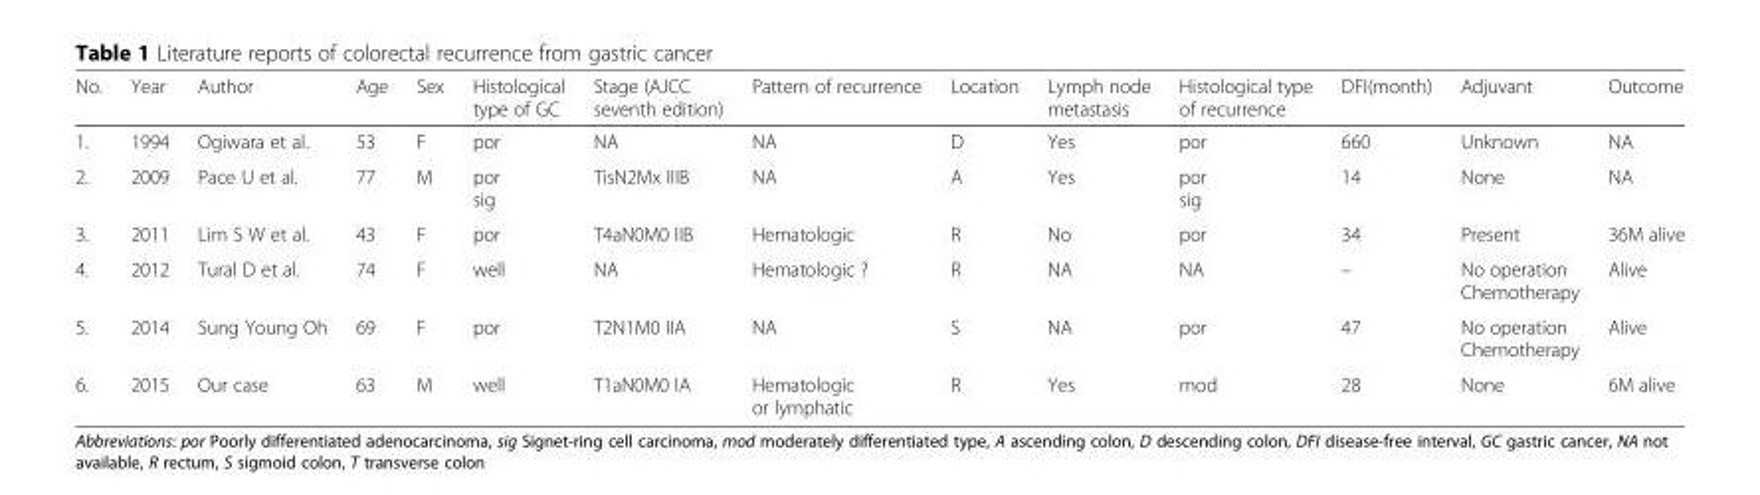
<table><thead><tr><td>No.</td><td>Year</td><td>Author</td><td>Age</td><td>Sex</td><td>Histological type of GC</td><td>Stage (AJCC seventh edition)</td><td>Pattern of recurrence</td><td>Location</td><td>Lymph node metastasis</td><td>Histological type of recurrence</td><td>DFI(month)</td><td>Adjuvant</td><td>Outcome</td></tr></thead><tbody><tr><td>1.</td><td>1994</td><td>Ogiwara et al.</td><td>53</td><td>F</td><td>por</td><td>NA</td><td>NA</td><td>D</td><td>Yes</td><td>por</td><td>660</td><td>Unknown</td><td>NA</td></tr><tr><td>2.</td><td>2009</td><td>Pace U et al.</td><td>77</td><td>M</td><td>por sig</td><td>TisN2Mx IIIB</td><td>NA</td><td>A</td><td>Yes</td><td>por sig</td><td>14</td><td>None</td><td>NA</td></tr><tr><td>3.</td><td>2011</td><td>Lim S W et al.</td><td>43</td><td>F</td><td>por</td><td>T4aN0M0 IIB</td><td>Hematologic</td><td>R</td><td>No</td><td>por</td><td>34</td><td>Present</td><td>36M alive</td></tr><tr><td>4.</td><td>2012</td><td>Tural D et al.</td><td>74</td><td>F</td><td>well</td><td>NA</td><td>Hematologic ?</td><td>R</td><td>NA</td><td>NA</td><td>–</td><td>No operation Chemotherapy</td><td>Alive</td></tr><tr><td>5.</td><td>2014</td><td>Sung Young Oh</td><td>69</td><td>F</td><td>por</td><td>T2N1M0 IIA</td><td>NA</td><td>S</td><td>NA</td><td>por</td><td>47</td><td>No operation Chemotherapy</td><td>Alive</td></tr><tr><td>6.</td><td>2015</td><td>Our case</td><td>63</td><td>M</td><td>well</td><td>T1aN0M0 IA</td><td>Hematologic or lymphatic</td><td>R</td><td>Yes</td><td>mod</td><td>28</td><td>None</td><td>6M alive</td></tr></tbody></table>